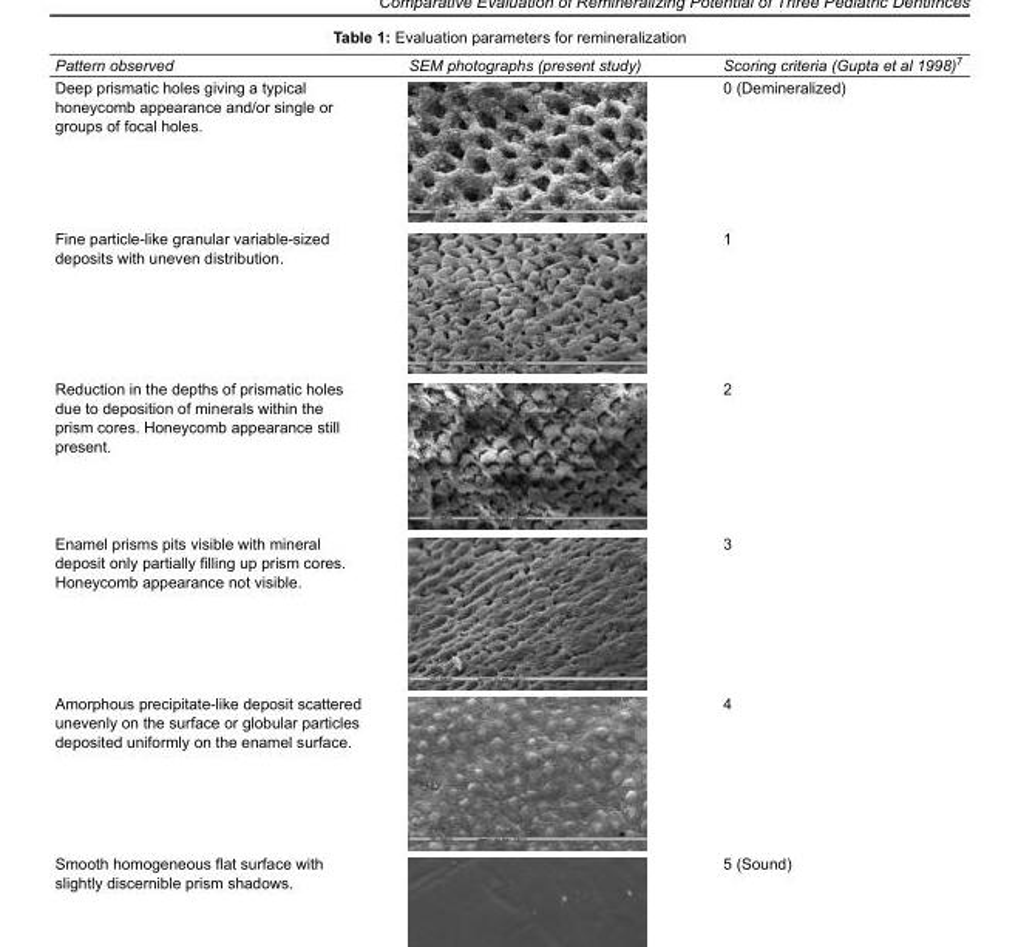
<table><tbody><tr><td>Pattern observed</td><td>SEM photographs (present study)</td><td>Scoring criteria (Gupta et al 1998)<sup>7</sup></td></tr><tr><td>Deep prismatic holes giving a typical honeycomb appearance and/or single or groups of focal holes.</td><td></td><td>0 (Demineralized)</td></tr><tr><td>Fine particle-like granular variable-sized deposits with uneven distribution.</td><td></td><td>1</td></tr><tr><td>Reduction in the depths of prismatic holes due to deposition of minerals within the prism cores. Honeycomb appearance still present.</td><td></td><td>2</td></tr><tr><td>Enamel prisms pits visible with mineral deposit only partially filling up prism cores. Honeycomb appearance not visible.</td><td></td><td>3</td></tr><tr><td>Amorphous precipitate-like deposit scattered unevenly on the surface or globular particles deposited uniformly on the enamel surface.</td><td></td><td>4</td></tr><tr><td>Smooth homogeneous flat surface with slightly discernible prism shadows.</td><td></td><td>5 (Sound)</td></tr></tbody></table>